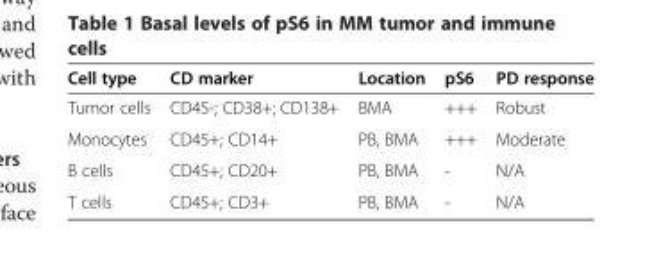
<table><thead><tr><td>Cell type</td><td>CD marker</td><td>Location</td><td>pS6</td><td>PD response</td></tr></thead><tbody><tr><td>Tumor cells</td><td>CD45-; CD38+; CD138+</td><td>BMA</td><td>+++</td><td>Robust</td></tr><tr><td>Monocytes</td><td>CD45+; CD14+</td><td>PB, BMA</td><td>+++</td><td>Moderate</td></tr><tr><td>B cells</td><td>CD45+; CD20+</td><td>PB, BMA</td><td>-</td><td>N/A</td></tr><tr><td>T cells</td><td>CD45+; CD3+</td><td>PB, BMA</td><td>-</td><td>N/A</td></tr></tbody></table>